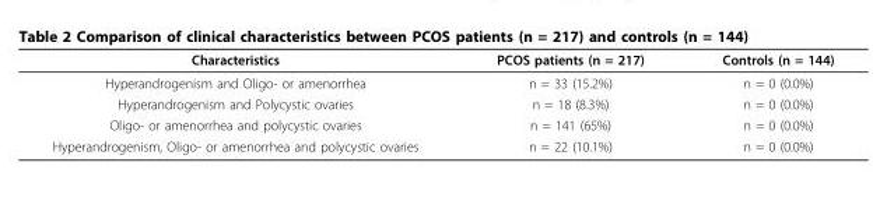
<table><thead><tr><td>Characteristics</td><td>PCOS patients (n = 217)</td><td>Controls (n = 144)</td></tr></thead><tbody><tr><td>Hyperandrogenism and Oligo- or amenorrhea</td><td>n = 33 (15.2%)</td><td>n = 0 (0.0%)</td></tr><tr><td>Hyperandrogenism and Polycystic ovaries</td><td>n = 18 (8.3%)</td><td>n = 0 (0.0%)</td></tr><tr><td>Oligo- or amenorrhea and polycystic ovaries</td><td>n = 141 (65%)</td><td>n = 0 (0.0%)</td></tr><tr><td>Hyperandrogenism, Oligo- or amenorrhea and polycystic ovaries</td><td>n = 22 (10.1%)</td><td>n = 0 (0.0%)</td></tr></tbody></table>